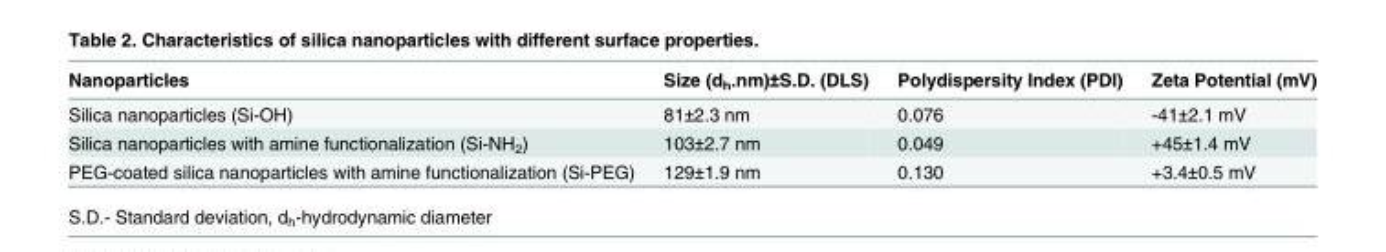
<table><thead><tr><td>Nanoparticles</td><td>Size (d<sub>h</sub>.nm)±S.D. (DLS)</td><td>Polydispersity Index (PDI)</td><td>Zeta Potential (mV)</td></tr></thead><tbody><tr><td>Silica nanoparticles (Si-OH)</td><td>81±2.3 nm</td><td>0.076</td><td>-41±2.1 mV</td></tr><tr><td>Silica nanoparticles with amine functionalization (Si-NH<sub>2</sub>)</td><td>103±2.7 nm</td><td>0.049</td><td>+45±1.4 mV</td></tr><tr><td>PEG-coated silica nanoparticles with amine functionalization (Si-PEG)</td><td>129±1.9 nm</td><td>0.130</td><td>+3.4±0.5 mV</td></tr></tbody></table>